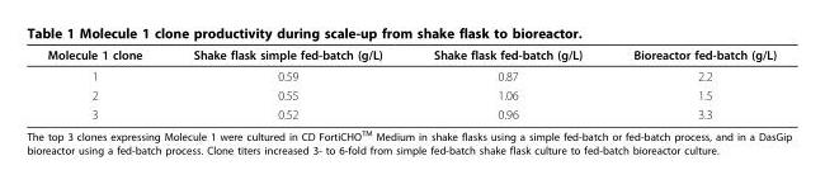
<table><thead><tr><td>Molecule 1 clone</td><td>Shake flask simple fed-batch (g/L)</td><td>Shake flask fed-batch (g/L)</td><td>Bioreactor fed-batch (g/L)</td></tr></thead><tbody><tr><td>1</td><td>0.59</td><td>0.87</td><td>2.2</td></tr><tr><td>2</td><td>0.55</td><td>1.06</td><td>1.5</td></tr><tr><td>3</td><td>0.52</td><td>0.96</td><td>3.3</td></tr></tbody></table>